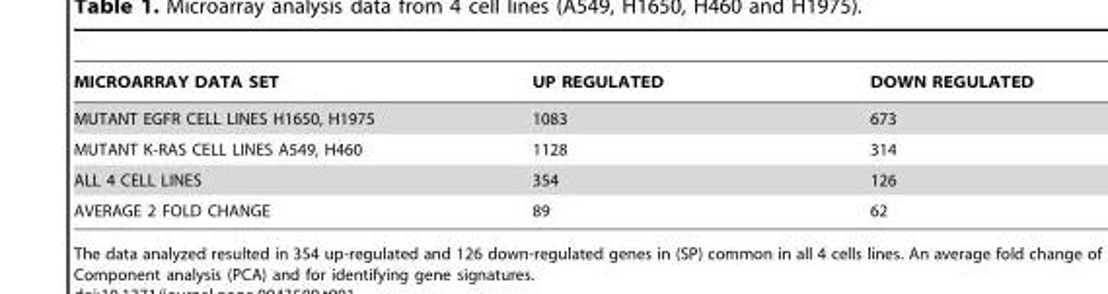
<table><thead><tr><td>MICROARRAY DATA SET</td><td>UP REGULATED</td><td>DOWN REGULATED</td></tr></thead><tbody><tr><td>MUTANT EGFR CELL LINES H1650, H1975</td><td>1083</td><td>673</td></tr><tr><td>MUTANT K-RAS CELL LINES A549, H460</td><td>1128</td><td>314</td></tr><tr><td>ALL 4 CELL LINES</td><td>354</td><td>126</td></tr><tr><td>AVERAGE 2 FOLD CHANGE</td><td>89</td><td>62</td></tr></tbody></table>